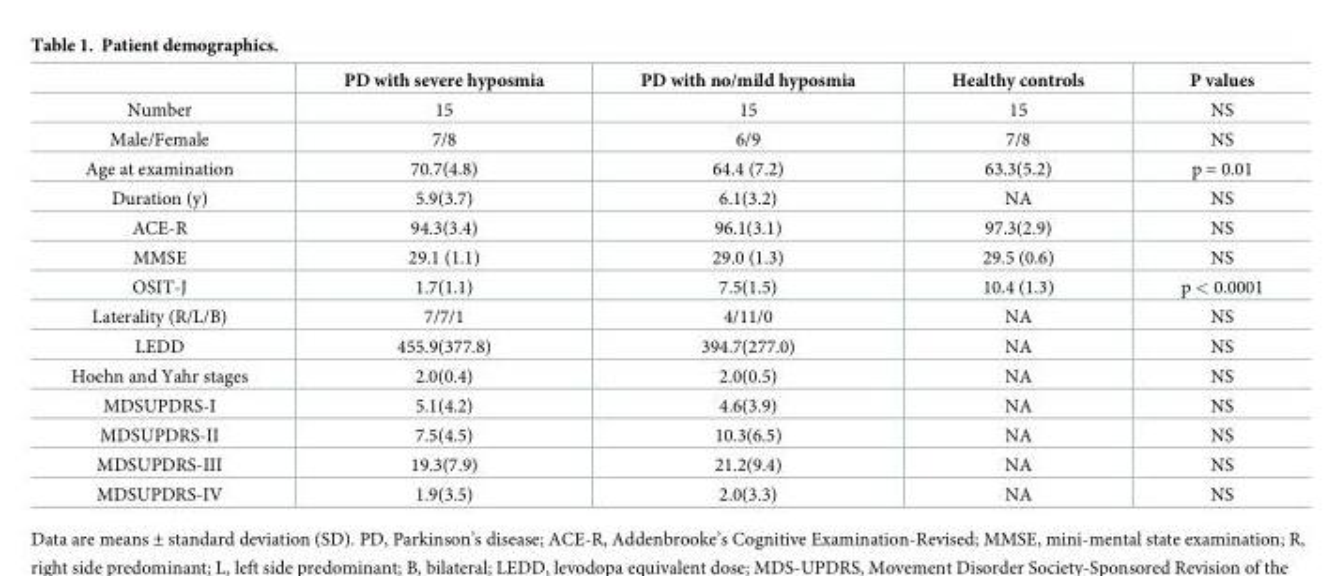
<table><thead><tr><td></td><td>PD with severe hyposmia</td><td>PD with no/mild hyposmia</td><td>Healthy controls</td><td>P values</td></tr></thead><tbody><tr><td>Number</td><td>15</td><td>15</td><td>15</td><td>NS</td></tr><tr><td>Male/Female</td><td>7/8</td><td>6/9</td><td>7/8</td><td>NS</td></tr><tr><td>Age at examination</td><td>70.7(4.8)</td><td>64.4 (7.2)</td><td>63.3(5.2)</td><td>p = 0.01</td></tr><tr><td>Duration (y)</td><td>5.9(3.7)</td><td>6.1(3.2)</td><td>NA</td><td>NS</td></tr><tr><td>ACE-R</td><td>94.3(3.4)</td><td>96.1(3.1)</td><td>97.3(2.9)</td><td>NS</td></tr><tr><td>MMSE</td><td>29.1 (1.1)</td><td>29.0 (1.3)</td><td>29.5 (0.6)</td><td>NS</td></tr><tr><td>OSIT-J</td><td>1.7(1.1)</td><td>7.5(1.5)</td><td>10.4 (1.3)</td><td>p &lt; 0.0001</td></tr><tr><td>Laterality (R/L/B)</td><td>7/7/1</td><td>4/11/0</td><td>NA</td><td>NS</td></tr><tr><td>LEDD</td><td>455.9(377.8)</td><td>394.7(277.0)</td><td>NA</td><td>NS</td></tr><tr><td>Hoehn and Yahr stages</td><td>2.0(0.4)</td><td>2.0(0.5)</td><td>NA</td><td>NS</td></tr><tr><td>MDSUPDRS-I</td><td>5.1(4.2)</td><td>4.6(3.9)</td><td>NA</td><td>NS</td></tr><tr><td>MDSUPDRS-II</td><td>7.5(4.5)</td><td>10.3(6.5)</td><td>NA</td><td>NS</td></tr><tr><td>MDSUPDRS-III</td><td>19.3(7.9)</td><td>21.2(9.4)</td><td>NA</td><td>NS</td></tr><tr><td>MDSUPDRS-IV</td><td>1.9(3.5)</td><td>2.0(3.3)</td><td>NA</td><td>NS</td></tr></tbody></table>